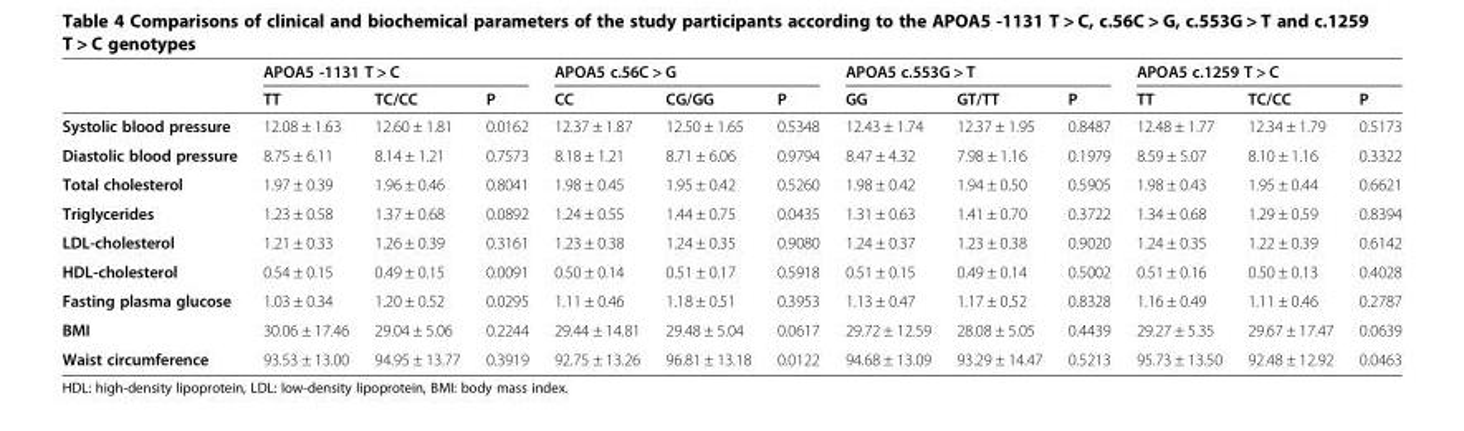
<table><thead><tr><td rowspan="2"></td><td colspan="3">APOA5 -1131 T &gt; C</td><td colspan="3">APOA5 c.56C &gt; G</td><td colspan="3">APOA5 c.553G &gt; T</td><td colspan="3">APOA5 c.1259 T &gt; C</td></tr><tr><td>TT</td><td>TC/CC</td><td>P</td><td>CC</td><td>CG/GG</td><td>P</td><td>GG</td><td>GT/TT</td><td>P</td><td>TT</td><td>TC/CC</td><td>P</td></tr></thead><tbody><tr><td>Systolic blood pressure</td><td>12.08 ± 1.63</td><td>12.60 ± 1.81</td><td>0.0162</td><td>12.37 ± 1.87</td><td>12.50 ± 1.65</td><td>0.5348</td><td>12.43 ± 1.74</td><td>12.37 ± 1.95</td><td>0.8487</td><td>12.48 ± 1.77</td><td>12.34 ± 1.79</td><td>0.5173</td></tr><tr><td>Diastolic blood pressure</td><td>8.75 ± 6.11</td><td>8.14 ± 1.21</td><td>0.7573</td><td>8.18 ± 1.21</td><td>8.71 ± 6.06</td><td>0.9794</td><td>8.47 ± 4.32</td><td>7.98 ± 1.16</td><td>0.1979</td><td>8.59 ± 5.07</td><td>8.10 ± 1.16</td><td>0.3322</td></tr><tr><td>Total cholesterol</td><td>1.97 ± 0.39</td><td>1.96 ± 0.46</td><td>0.8041</td><td>1.98 ± 0.45</td><td>1.95 ± 0.42</td><td>0.5260</td><td>1.98 ± 0.42</td><td>1.94 ± 0.50</td><td>0.5905</td><td>1.98 ± 0.43</td><td>1.95 ± 0.44</td><td>0.6621</td></tr><tr><td>Triglycerides</td><td>1.23 ± 0.58</td><td>1.37 ± 0.68</td><td>0.0892</td><td>1.24 ± 0.55</td><td>1.44 ± 0.75</td><td>0.0435</td><td>1.31 ± 0.63</td><td>1.41 ± 0.70</td><td>0.3722</td><td>1.34 ± 0.68</td><td>1.29 ± 0.59</td><td>0.8394</td></tr><tr><td>LDL-cholesterol</td><td>1.21 ± 0.33</td><td>1.26 ± 0.39</td><td>0.3161</td><td>1.23 ± 0.38</td><td>1.24 ± 0.35</td><td>0.9080</td><td>1.24 ± 0.37</td><td>1.23 ± 0.38</td><td>0.9020</td><td>1.24 ± 0.35</td><td>1.22 ± 0.39</td><td>0.6142</td></tr><tr><td>HDL-cholesterol</td><td>0.54 ± 0.15</td><td>0.49 ± 0.15</td><td>0.0091</td><td>0.50 ± 0.14</td><td>0.51 ± 0.17</td><td>0.5918</td><td>0.51 ± 0.15</td><td>0.49 ± 0.14</td><td>0.5002</td><td>0.51 ± 0.16</td><td>0.50 ± 0.13</td><td>0.4028</td></tr><tr><td>Fasting plasma glucose</td><td>1.03 ± 0.34</td><td>1.20 ± 0.52</td><td>0.0295</td><td>1.11 ± 0.46</td><td>1.18 ± 0.51</td><td>0.3953</td><td>1.13 ± 0.47</td><td>1.17 ± 0.52</td><td>0.8328</td><td>1.16 ± 0.49</td><td>1.11 ± 0.46</td><td>0.2787</td></tr><tr><td>BMI</td><td>30.06 ± 17.46</td><td>29.04 ± 5.06</td><td>0.2244</td><td>29.44 ± 14.81</td><td>29.48 ± 5.04</td><td>0.0617</td><td>29.72 ± 12.59</td><td>28.08 ± 5.05</td><td>0.4439</td><td>29.27 ± 5.35</td><td>29.67 ± 17.47</td><td>0.0639</td></tr><tr><td>Waist circumference</td><td>93.53 ± 13.00</td><td>94.95 ± 13.77</td><td>0.3919</td><td>92.75 ± 13.26</td><td>96.81 ± 13.18</td><td>0.0122</td><td>94.68 ± 13.09</td><td>93.29 ± 14.47</td><td>0.5213</td><td>95.73 ± 13.50</td><td>92.48 ± 12.92</td><td>0.0463</td></tr></tbody></table>